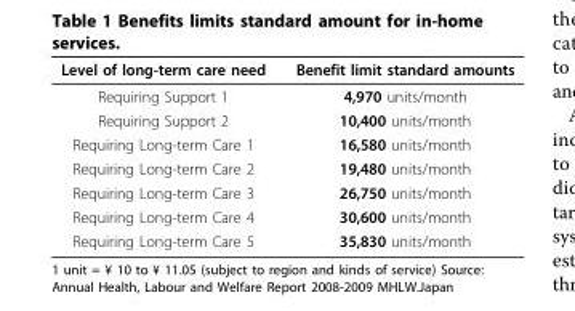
<table><thead><tr><td>Level of long-term care need</td><td>Benefit limit standard amounts</td></tr></thead><tbody><tr><td>Requiring Support 1</td><td>4,970 units/month</td></tr><tr><td>Requiring Support 2</td><td>10,400 units/month</td></tr><tr><td>Requiring Long-term Care 1</td><td>16,580 units/month</td></tr><tr><td>Requiring Long-term Care 2</td><td>19,480 units/month</td></tr><tr><td>Requiring Long-term Care 3</td><td>26,750 units/month</td></tr><tr><td>Requiring Long-term Care 4</td><td>30,600 units/month</td></tr><tr><td>Requiring Long-term Care 5</td><td>35,830 units/month</td></tr></tbody></table>